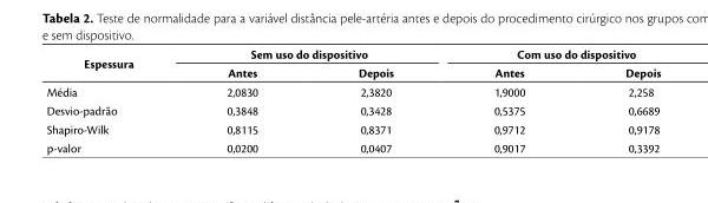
<table><thead><tr><td rowspan="2">Espessura</td><td colspan="2">Sem uso do dispositivo</td><td colspan="2">Com uso do dispositivo</td></tr><tr><td>Antes</td><td>Depois</td><td>Antes</td><td>Depois</td></tr></thead><tbody><tr><td>Média</td><td>2,0830</td><td>2,3820</td><td>1,9000</td><td>2,258</td></tr><tr><td>Desvio-padrão</td><td>0,3848</td><td>0,3428</td><td>0,5375</td><td>0,6689</td></tr><tr><td>Shapiro-Wilk</td><td>0,8115</td><td>0,8371</td><td>0,9712</td><td>0,9178</td></tr><tr><td>p-valor</td><td>0,0200</td><td>0,0407</td><td>0,9017</td><td>0,3392</td></tr></tbody></table>